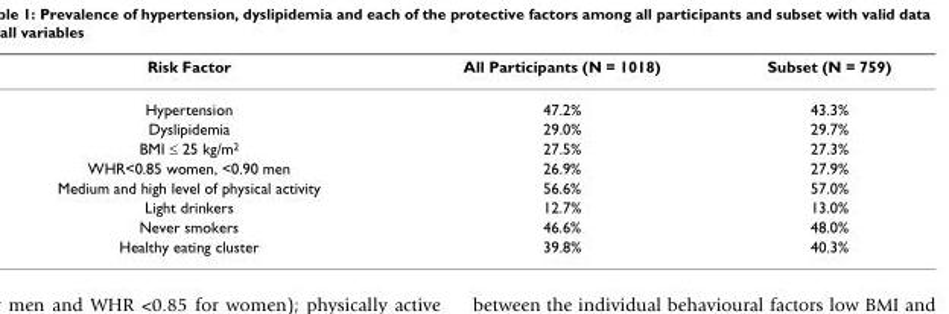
<table><thead><tr><td>Risk Factor</td><td>All Participants (N = 1018)</td><td>Subset (N = 759)</td></tr></thead><tbody><tr><td>Hypertension</td><td>47.2%</td><td>43.3%</td></tr><tr><td>Dyslipidemia</td><td>29.0%</td><td>29.7%</td></tr><tr><td>BMI ≤ 25 kg/m<sup>2</sup></td><td>27.5%</td><td>27.3%</td></tr><tr><td>WHR&lt;0.85 women, &lt;0.90 men</td><td>26.9%</td><td>27.9%</td></tr><tr><td>Medium and high level of physical activity</td><td>56.6%</td><td>57.0%</td></tr><tr><td>Light drinkers</td><td>12.7%</td><td>13.0%</td></tr><tr><td>Never smokers</td><td>46.6%</td><td>48.0%</td></tr><tr><td>Healthy eating cluster</td><td>39.8%</td><td>40.3%</td></tr></tbody></table>